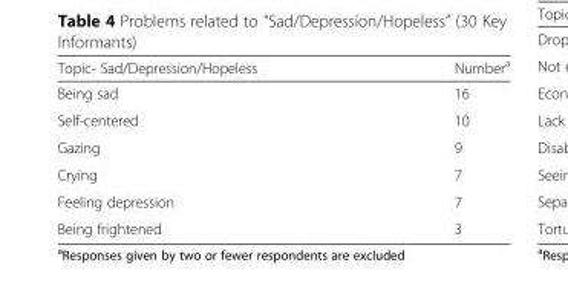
<table><thead><tr><td>Topic- Sad/Depression/Hopeless</td><td>Number<sup>a</sup></td></tr></thead><tbody><tr><td>Being sad</td><td>16</td></tr><tr><td>Self-centered</td><td>10</td></tr><tr><td>Gazing</td><td>9</td></tr><tr><td>Crying</td><td>7</td></tr><tr><td>Feeling depression</td><td>7</td></tr><tr><td>Being frightened</td><td>3</td></tr></tbody></table>